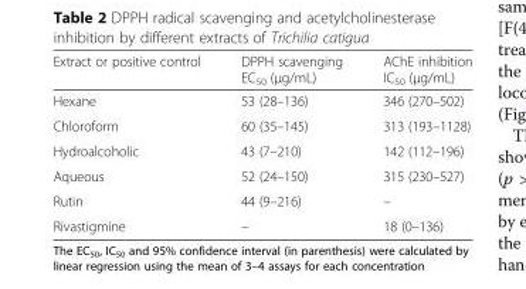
<table><thead><tr><td>Extract or positive control</td><td>DPPH scavenging EC<sub>50</sub> (μg/mL)</td><td>AChE inhibition IC<sub>50</sub> (μg/mL)</td></tr></thead><tbody><tr><td>Hexane</td><td>53 (28–136)</td><td>346 (270–502)</td></tr><tr><td>Chloroform</td><td>60 (35–145)</td><td>313 (193–1128)</td></tr><tr><td>Hydroalcoholic</td><td>43 (7–210)</td><td>142 (112–196)</td></tr><tr><td>Aqueous</td><td>52 (24–150)</td><td>315 (230–527)</td></tr><tr><td>Rutin</td><td>44 (9–216)</td><td>–</td></tr><tr><td>Rivastigmine</td><td>–</td><td>18 (0–136)</td></tr></tbody></table>